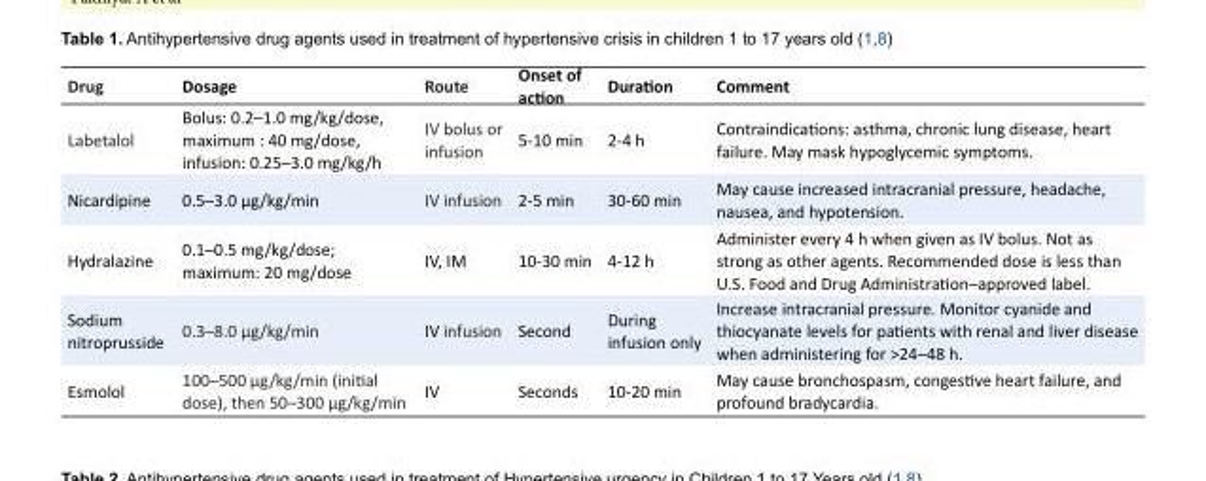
<table><tbody><tr><td>Drug</td><td>Dosage</td><td>Route</td><td>Onset of action</td><td>Duration</td><td>Comment</td></tr><tr><td>Labetalol</td><td>Bolus: 0.2–1.0 mg/kg/dose, maximum : 40 mg/dose, infusion: 0.25–3.0 mg/kg/h</td><td>IV bolus or infusion</td><td>5-10 min</td><td>2-4 h</td><td>Contraindications: asthma, chronic lung disease, heart failure. May mask hypoglycemic symptoms.</td></tr><tr><td>Nicardipine</td><td>0.5–3.0 μg/kg/min</td><td>IV infusion</td><td>2-5 min</td><td>30-60 min</td><td>May cause increased intracranial pressure, headache, nausea, and hypotension.</td></tr><tr><td>Hydralazine</td><td>0.1–0.5 mg/kg/dose; maximum: 20 mg/dose</td><td>IV, IM</td><td>10-30 min</td><td>4-12 h</td><td>Administer every 4 h when given as IV bolus. Not as strong as other agents. Recommended dose is less than U.S. Food and Drug Administration–approved label.</td></tr><tr><td>Sodium nitroprusside</td><td>0.3–8.0 μg/kg/min</td><td>IV infusion</td><td>Second</td><td>During infusion only</td><td>Increase intracranial pressure. Monitor cyanide and thiocyanate levels for patients with renal and liver disease when administering for &gt;24–48 h.</td></tr><tr><td>Esmolol</td><td>100–500 μg/kg/min (initial dose), then 50–300 μg/kg/min</td><td>IV</td><td>Seconds</td><td>10-20 min</td><td>May cause bronchospasm, congestive heart failure, and profound bradycardia.</td></tr></tbody></table>